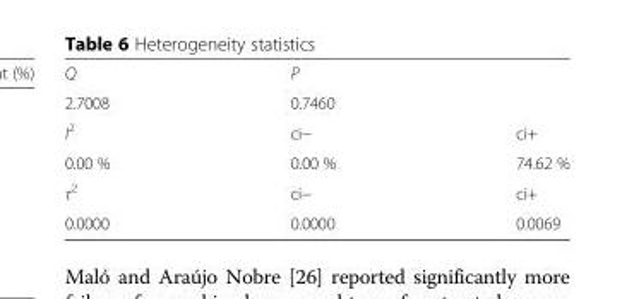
<table><tbody><tr><td>Q</td><td>P</td><td></td></tr><tr><td>2.7008</td><td>0.7460</td><td></td></tr><tr><td>I<sup>2</sup></td><td>ci−</td><td>ci+</td></tr><tr><td>0.00 %</td><td>0.00 %</td><td>74.62 %</td></tr><tr><td>τ<sup>2</sup></td><td>ci−</td><td>ci+</td></tr><tr><td>0.0000</td><td>0.0000</td><td>0.0069</td></tr></tbody></table>